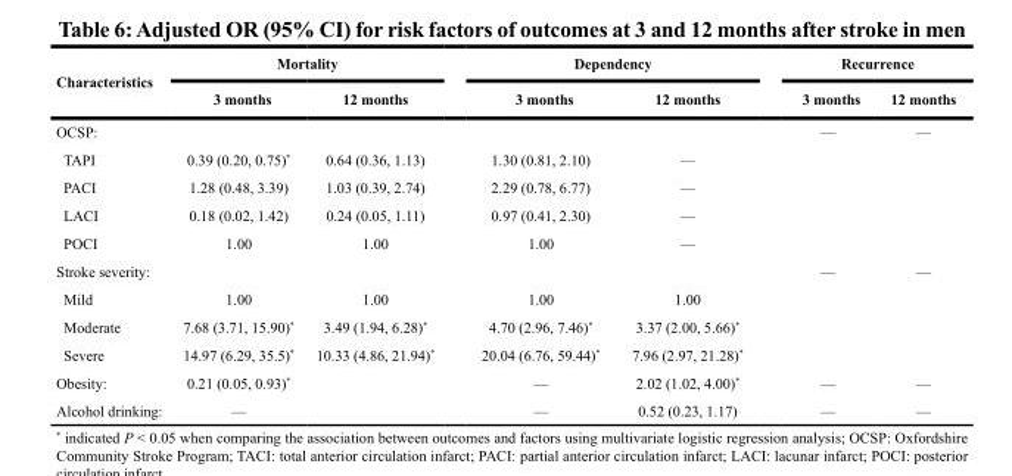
<table><thead><tr><td rowspan="2">Characteristics</td><td colspan="2">Mortality</td><td colspan="2">Dependency</td><td colspan="2">Recurrence</td></tr><tr><td>3 months</td><td>12 months</td><td>3 months</td><td>12 months</td><td>3 months</td><td>12 months</td></tr></thead><tbody><tr><td>OCSP:</td><td></td><td></td><td></td><td></td><td>—</td><td>—</td></tr><tr><td>TAPI</td><td>0.39 (0.20, 0.75)*</td><td>0.64 (0.36, 1.13)</td><td>1.30 (0.81, 2.10)</td><td>—</td><td></td><td></td></tr><tr><td>PACI</td><td>1.28 (0.48, 3.39)</td><td>1.03 (0.39, 2.74)</td><td>2.29 (0.78, 6.77)</td><td>—</td><td></td><td></td></tr><tr><td>LACI</td><td>0.18 (0.02, 1.42)</td><td>0.24 (0.05, 1.11)</td><td>0.97 (0.41, 2.30)</td><td>—</td><td></td><td></td></tr><tr><td>POCI</td><td>1.00</td><td>1.00</td><td>1.00</td><td>—</td><td></td><td></td></tr><tr><td>Stroke severity:</td><td></td><td></td><td></td><td></td><td>—</td><td>—</td></tr><tr><td>Mild</td><td>1.00</td><td>1.00</td><td>1.00</td><td>1.00</td><td></td><td></td></tr><tr><td>Moderate</td><td>7.68 (3.71, 15.90)*</td><td>3.49 (1.94, 6.28)*</td><td>4.70 (2.96, 7.46)*</td><td>3.37 (2.00, 5.66)*</td><td></td><td></td></tr><tr><td>Severe</td><td>14.97 (6.29, 35.5)*</td><td>10.33 (4.86, 21.94)*</td><td>20.04 (6.76, 59.44)*</td><td>7.96 (2.97, 21.28)*</td><td></td><td></td></tr><tr><td>Obesity:</td><td>0.21 (0.05, 0.93)*</td><td></td><td>—</td><td>2.02 (1.02, 4.00)*</td><td>—</td><td>—</td></tr><tr><td>Alcohol drinking:</td><td>—</td><td></td><td>—</td><td>0.52 (0.23, 1.17)</td><td>—</td><td>—</td></tr></tbody></table>